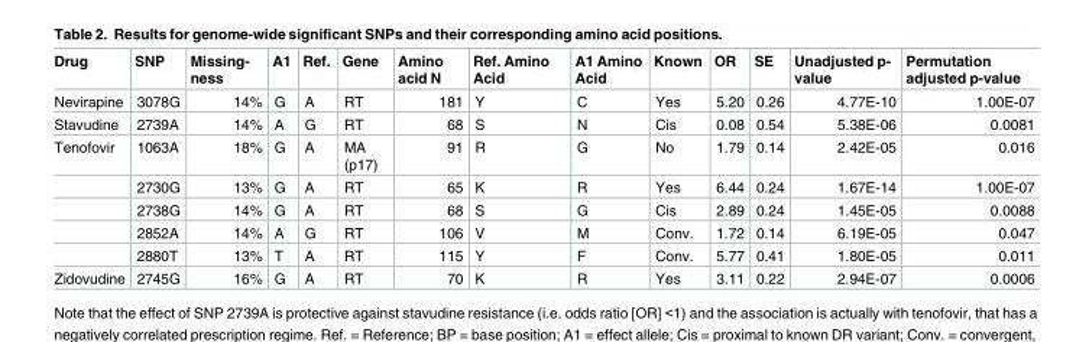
<table><thead><tr><td>Drug</td><td>SNP</td><td>Missing- ness</td><td>A1</td><td>Ref.</td><td>Gene</td><td>Amino acid N</td><td>Ref. Amino Acid</td><td>A1 Amino Acid</td><td>Known</td><td>OR</td><td>SE</td><td>Unadjusted p- value</td><td>Permutation adjusted p-value</td></tr></thead><tbody><tr><td>Nevirapine</td><td>3078G</td><td>14%</td><td>G</td><td>A</td><td>RT</td><td>181</td><td>Y</td><td>C</td><td>Yes</td><td>5.20</td><td>0.26</td><td>4.77E-10</td><td>1.00E-07</td></tr><tr><td>Stavudine</td><td>2739A</td><td>14%</td><td>A</td><td>G</td><td>RT</td><td>68</td><td>S</td><td>N</td><td>Cis</td><td>0.08</td><td>0.54</td><td>5.38E-06</td><td>0.0081</td></tr><tr><td rowspan="5">Tenofovir</td><td>1063A</td><td>18%</td><td>G</td><td>A</td><td>MA (p17)</td><td>91</td><td>R</td><td>G</td><td>No</td><td>1.79</td><td>0.14</td><td>2.42E-05</td><td>0.016</td></tr><tr><td>2730G</td><td>13%</td><td>G</td><td>A</td><td>RT</td><td>65</td><td>K</td><td>R</td><td>Yes</td><td>6.44</td><td>0.24</td><td>1.67E-14</td><td>1.00E-07</td></tr><tr><td>2738G</td><td>14%</td><td>G</td><td>A</td><td>RT</td><td>68</td><td>S</td><td>G</td><td>Cis</td><td>2.89</td><td>0.24</td><td>1.45E-05</td><td>0.0088</td></tr><tr><td>2852A</td><td>14%</td><td>A</td><td>G</td><td>RT</td><td>106</td><td>V</td><td>M</td><td>Conv.</td><td>1.72</td><td>0.14</td><td>6.19E-05</td><td>0.047</td></tr><tr><td>2880T</td><td>13%</td><td>T</td><td>A</td><td>RT</td><td>115</td><td>Y</td><td>F</td><td>Conv.</td><td>5.77</td><td>0.41</td><td>1.80E-05</td><td>0.011</td></tr><tr><td>Zidovudine</td><td>2745G</td><td>16%</td><td>G</td><td>A</td><td>RT</td><td>70</td><td>K</td><td>R</td><td>Yes</td><td>3.11</td><td>0.22</td><td>2.94E-07</td><td>0.0006</td></tr></tbody></table>